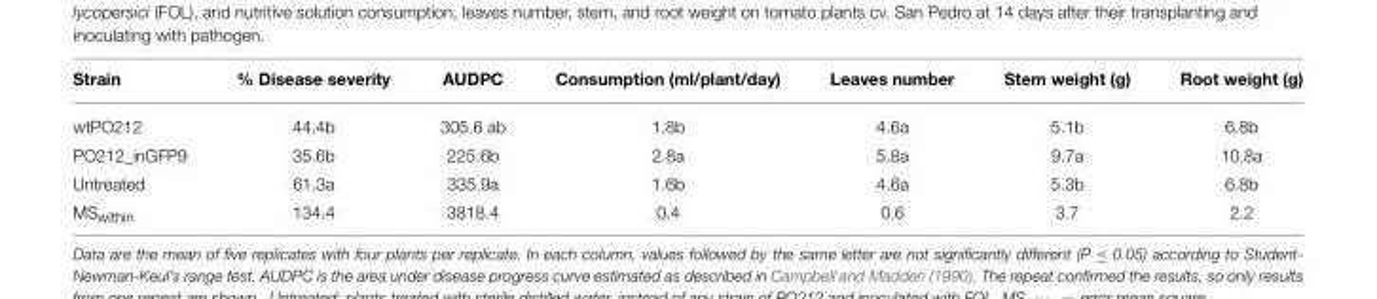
<table><thead><tr><td>Strain</td><td>% Disease severity</td><td>AUDPC</td><td>Consumption (ml/plant/day)</td><td>Leaves number</td><td>Stem weight (g)</td><td>Root weight (g)</td></tr></thead><tbody><tr><td>wtPO212</td><td>44.4b</td><td>305.6 ab</td><td>1.8b</td><td>4.6a</td><td>5.1b</td><td>6.8b</td></tr><tr><td>PO212_inGFP9</td><td>35.6b</td><td>225.6b</td><td>2.8a</td><td>5.8a</td><td>9.7a</td><td>10.8a</td></tr><tr><td>Untreated</td><td>61.3a</td><td>335.9a</td><td>1.6b</td><td>4.6a</td><td>5.3b</td><td>6.8b</td></tr><tr><td>MS<sub>within</sub></td><td>134.4</td><td>3818.4</td><td>0.4</td><td>0.6</td><td>3.7</td><td>2.2</td></tr></tbody></table>